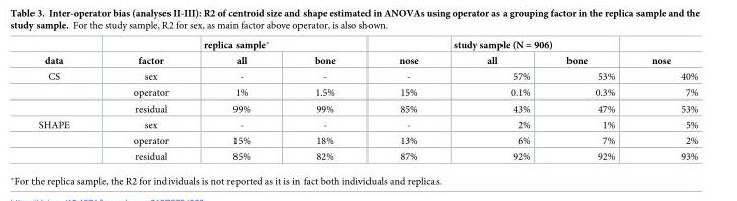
<table><thead><tr><td rowspan="2">data</td><td rowspan="2">factor</td><td colspan="2">replica sample*</td><td rowspan="2">nose</td><td colspan="2">study sample (N = 906)</td><td rowspan="2">nose</td></tr><tr><td>all</td><td>bone</td><td>all</td><td>bone</td></tr></thead><tbody><tr><td rowspan="3">CS</td><td>sex</td><td>-</td><td>-</td><td>-</td><td>57%</td><td>53%</td><td>40%</td></tr><tr><td>operator</td><td>1%</td><td>1.5%</td><td>15%</td><td>0.1%</td><td>0.3%</td><td>7%</td></tr><tr><td>residual</td><td>99%</td><td>99%</td><td>85%</td><td>43%</td><td>47%</td><td>53%</td></tr><tr><td rowspan="3">SHAPE</td><td>sex</td><td>-</td><td>-</td><td>-</td><td>2%</td><td>1%</td><td>5%</td></tr><tr><td>operator</td><td>15%</td><td>18%</td><td>13%</td><td>6%</td><td>7%</td><td>2%</td></tr><tr><td>residual</td><td>85%</td><td>82%</td><td>87%</td><td>92%</td><td>92%</td><td>93%</td></tr></tbody></table>